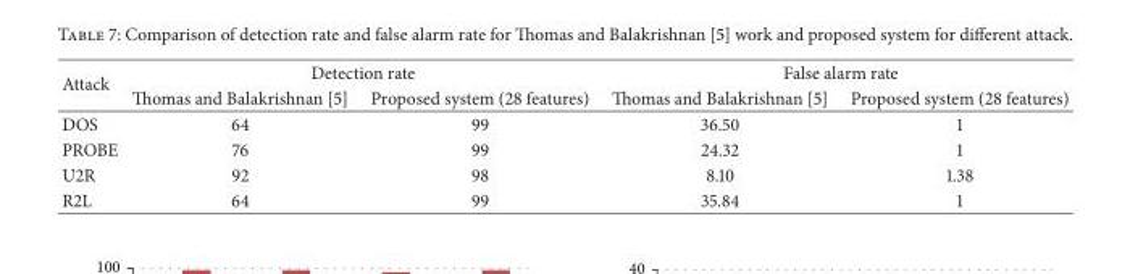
<table><thead><tr><td rowspan="2">Attack</td><td colspan="2">Detection rate</td><td colspan="2">False alarm rate</td></tr><tr><td>Thomas and Balakrishnan [5]</td><td>Proposed system (28 features)</td><td>Thomas and Balakrishnan [5]</td><td>Proposed system (28 features)</td></tr></thead><tbody><tr><td>DOS</td><td>64</td><td>99</td><td>36.50</td><td>1</td></tr><tr><td>PROBE</td><td>76</td><td>99</td><td>24.32</td><td>1</td></tr><tr><td>U2R</td><td>92</td><td>98</td><td>8.10</td><td>1.38</td></tr><tr><td>R2L</td><td>64</td><td>99</td><td>35.84</td><td>1</td></tr></tbody></table>